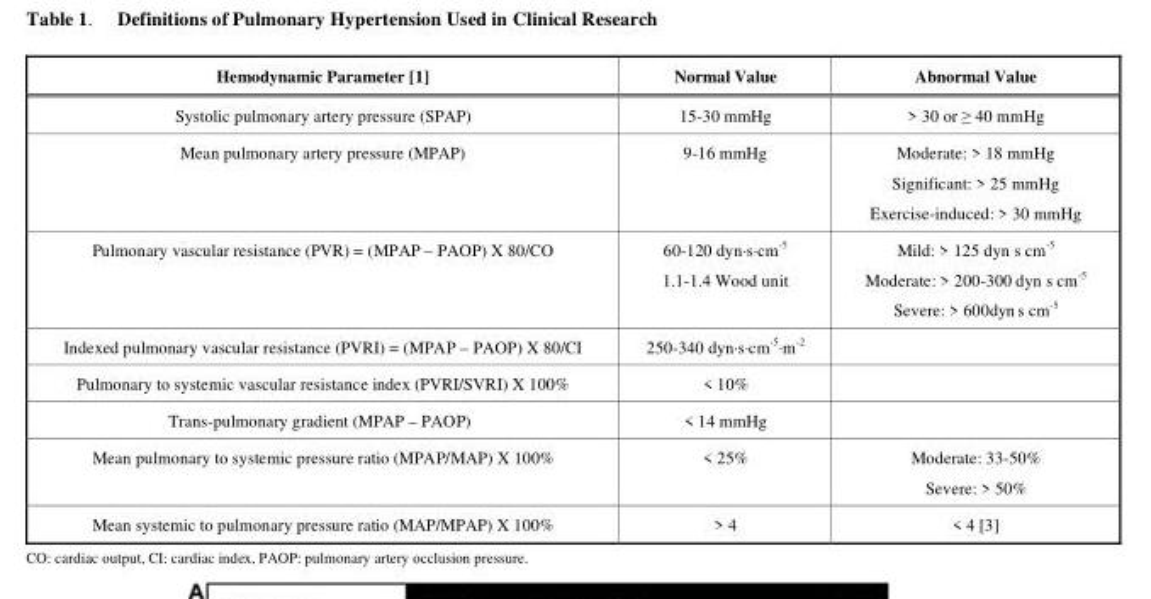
<table><thead><tr><td>Hemodynamic Parameter [1]</td><td>Normal Value</td><td>Abnormal Value</td></tr></thead><tbody><tr><td>Systolic pulmonary artery pressure (SPAP)</td><td>15-30 mmHg</td><td>&gt; 30 or ≥ 40 mmHg</td></tr><tr><td>Mean pulmonary artery pressure (MPAP)</td><td>9-16 mmHg</td><td>Moderate: &gt; 18 mmHg Significant: &gt; 25 mmHg Exercise-induced: &gt; 30 mmHg</td></tr><tr><td>Pulmonary vascular resistance (PVR) = (MPAP – PAOP) X 80/CO</td><td>60-120 dyn·s·cm<sup>-5</sup> 1.1-1.4 Wood unit</td><td>Mild: &gt; 125 dyn s cm<sup>-5</sup> Moderate: &gt; 200-300 dyn s cm<sup>-5</sup> Severe: &gt; 600dyn s cm<sup>-5</sup></td></tr><tr><td>Indexed pulmonary vascular resistance (PVRI) = (MPAP – PAOP) X 80/CI</td><td>250-340 dyn·s·cm<sup>-5</sup>·m<sup>-2</sup></td><td></td></tr><tr><td>Pulmonary to systemic vascular resistance index (PVRI/SVRI) X 100%</td><td>&lt; 10%</td><td></td></tr><tr><td>Trans-pulmonary gradient (MPAP – PAOP)</td><td>&lt; 14 mmHg</td><td></td></tr><tr><td>Mean pulmonary to systemic pressure ratio (MPAP/MAP) X 100%</td><td>&lt; 25%</td><td>Moderate: 33-50% Severe: &gt; 50%</td></tr><tr><td>Mean systemic to pulmonary pressure ratio (MAP/MPAP) X 100%</td><td>&gt; 4</td><td>&lt; 4 [3]</td></tr></tbody></table>